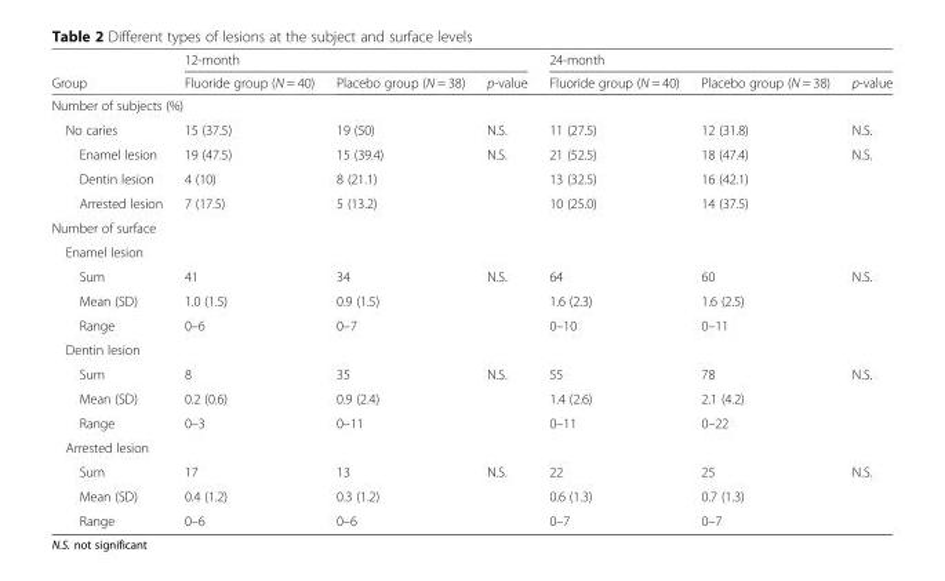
<table><thead><tr><td rowspan="2">Group</td><td colspan="3">12-month</td><td colspan="3">24-month</td></tr><tr><td>Fluoride group (N = 40)</td><td>Placebo group (N = 38)</td><td>p-value</td><td>Fluoride group (N = 40)</td><td>Placebo group (N = 38)</td><td>p-value</td></tr></thead><tbody><tr><td colspan="7">Number of subjects (%)</td></tr><tr><td>No caries</td><td>15 (37.5)</td><td>19 (50)</td><td>N.S.</td><td>11 (27.5)</td><td>12 (31.8)</td><td>N.S.</td></tr><tr><td>Enamel lesion</td><td>19 (47.5)</td><td>15 (39.4)</td><td>N.S.</td><td>21 (52.5)</td><td>18 (47.4)</td><td>N.S.</td></tr><tr><td>Dentin lesion</td><td>4 (10)</td><td>8 (21.1)</td><td></td><td>13 (32.5)</td><td>16 (42.1)</td><td></td></tr><tr><td>Arrested lesion</td><td>7 (17.5)</td><td>5 (13.2)</td><td></td><td>10 (25.0)</td><td>14 (37.5)</td><td></td></tr><tr><td colspan="7">Number of surface</td></tr><tr><td colspan="7">Enamel lesion</td></tr><tr><td>Sum</td><td>41</td><td>34</td><td>N.S.</td><td>64</td><td>60</td><td rowspan="3">N.S.</td></tr><tr><td>Mean (SD)</td><td>1.0 (1.5)</td><td>0.9 (1.5)</td><td></td><td>1.6 (2.3)</td><td>1.6 (2.5)</td></tr><tr><td>Range</td><td>0–6</td><td>0–7</td><td></td><td>0–10</td><td>0–11</td></tr><tr><td colspan="7">Dentin lesion</td></tr><tr><td>Sum</td><td>8</td><td>35</td><td>N.S.</td><td>55</td><td>78</td><td rowspan="3">N.S.</td></tr><tr><td>Mean (SD)</td><td>0.2 (0.6)</td><td>0.9 (2.4)</td><td></td><td>1.4 (2.6)</td><td>2.1 (4.2)</td></tr><tr><td>Range</td><td>0–3</td><td>0–11</td><td></td><td>0–11</td><td>0–22</td></tr><tr><td colspan="7">Arrested lesion</td></tr><tr><td>Sum</td><td>17</td><td>13</td><td>N.S.</td><td>22</td><td>25</td><td rowspan="3">N.S.</td></tr><tr><td>Mean (SD)</td><td>0.4 (1.2)</td><td>0.3 (1.2)</td><td></td><td>0.6 (1.3)</td><td>0.7 (1.3)</td></tr><tr><td>Range</td><td>0–6</td><td>0–6</td><td></td><td>0–7</td><td>0–7</td></tr></tbody></table>